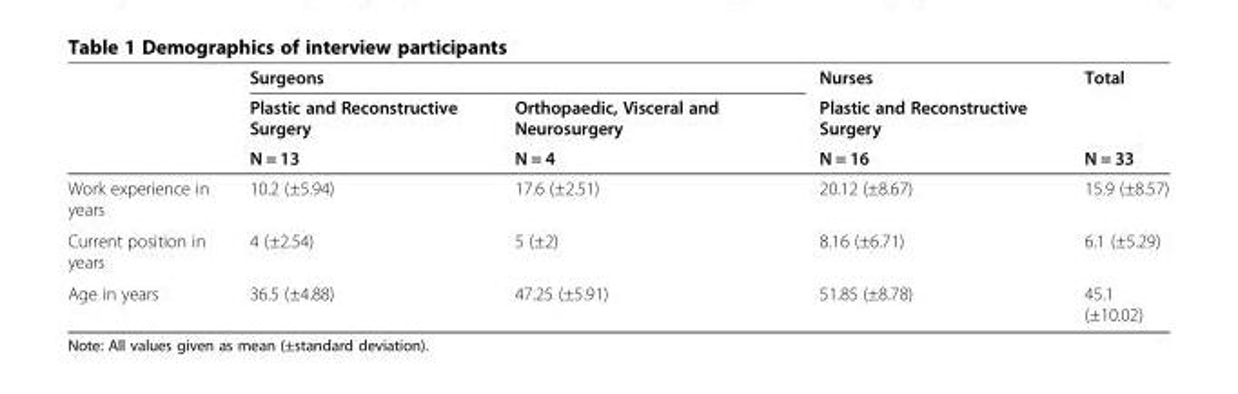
<table><thead><tr><td rowspan="3"></td><td colspan="2">Surgeons</td><td rowspan="3">Nurses Plastic and Reconstructive Surgery N = 16</td><td rowspan="3">Total N = 33</td></tr><tr><td rowspan="2">Plastic and Reconstructive Surgery N = 13</td><td rowspan="2">Orthopaedic, Visceral and Neurosurgery N = 4</td></tr><tr></tr></thead><tbody><tr><td>Work experience in years</td><td>10.2 (±5.94)</td><td>17.6 (±2.51)</td><td>20.12 (±8.67)</td><td>15.9 (±8.57)</td></tr><tr><td>Current position in years</td><td>4 (±2.54)</td><td>5 (±2)</td><td>8.16 (±6.71)</td><td>6.1 (±5.29)</td></tr><tr><td>Age in years</td><td>36.5 (±4.88)</td><td>47.25 (±5.91)</td><td>51.85 (±8.78)</td><td>45.1 (±10.02)</td></tr></tbody></table>